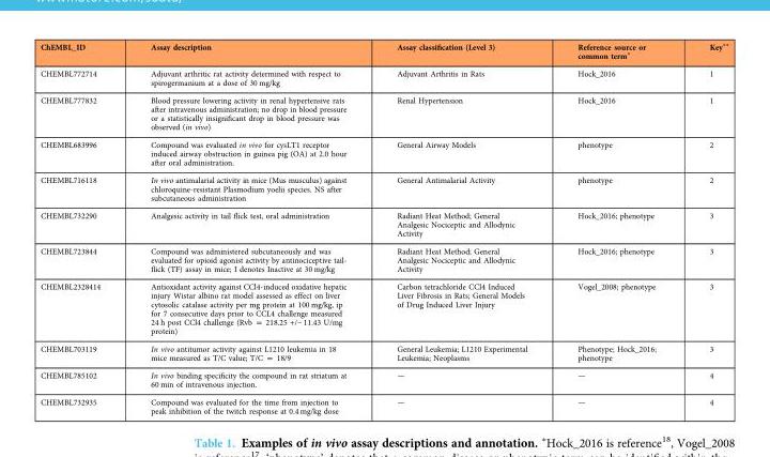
<table><thead><tr><td>ChEMBL_ID</td><td>Assay description</td><td>Assay classification (Level 3)</td><td>Reference source or common term∗</td><td>Key∗∗</td></tr></thead><tbody><tr><td>CHEMBL772714</td><td>Adjuvant arthritic rat activity determined with respect to spirogermanium at a dose of 30 mg/kg</td><td>Adjuvant Arthritis in Rats</td><td>Hock_2016</td><td>1</td></tr><tr><td>CHEMBL777832</td><td>Blood pressure lowering activity in renal hypertensive rats after intravenous administration; no drop in blood pressure or a statistically insignificant drop in blood pressure was observed (in vivo)</td><td>Renal Hypertension</td><td>Hock_2016</td><td>1</td></tr><tr><td>CHEMBL683996</td><td>Compound was evaluated in vivo for cysLT1 receptor induced airway obstruction in guinea pig (OA) at 2.0 hour after oral administration.</td><td>General Airway Models</td><td>phenotype</td><td>2</td></tr><tr><td>CHEMBL716118</td><td>In vivo antimalarial activity in mice (Mus musculus) against chloroquine-resistant Plasmodium yoelii species. NS after subcutaneous administration</td><td>General Antimalarial Activity</td><td>phenotype</td><td>2</td></tr><tr><td>CHEMBL732290</td><td>Analgesic activity in tail flick test, oral administration</td><td>Radiant Heat Method; General Analgesic Nociceptic and Allodynic Activity</td><td>Hock_2016; phenotype</td><td>3</td></tr><tr><td>CHEMBL723844</td><td>Compound was administered subcutaneously and was evaluated for opioid agonist activity by antinociceptive tail- flick (TF) assay in mice; I denotes Inactive at 30 mg/kg</td><td>Radiant Heat Method; General Analgesic Nociceptic and Allodynic Activity</td><td>Hock_2016; phenotype</td><td>3</td></tr><tr><td>CHEMBL2328414</td><td>Antioxidant activity against CCl4-induced oxidative hepatic injury Wistar albino rat model assessed as effect on liver cytosolic catalase activity per mg protein at 100 mg/kg, ip for 7 consecutive days prior to CCL4 challenge measured 24 h post CCl4 challenge (Rvb = 218.25 +/− 11.43 U/mg protein)</td><td>Carbon tetrachloride CCl4 Induced Liver Fibrosis in Rats; General Models of Drug Induced Liver Injury</td><td>Vogel_2008; phenotype</td><td>3</td></tr><tr><td>CHEMBL703119</td><td>In vivo antitumor activity against L1210 leukemia in 18 mice measured as T/C value; T/C = 18/9</td><td>General Leukemia; L1210 Experimental Leukemia; Neoplasms</td><td>Phenotype; Hock_2016; phenotype</td><td>3</td></tr><tr><td>CHEMBL785102</td><td>In vivo binding specificity the compound in rat striatum at 60 min of intravenous injection.</td><td>—</td><td>—</td><td>4</td></tr><tr><td>CHEMBL732935</td><td>Compound was evaluated for the time from injection to peak inhibition of the twitch response at 0.4 mg/kg dose</td><td>—</td><td>—</td><td>4</td></tr></tbody></table>